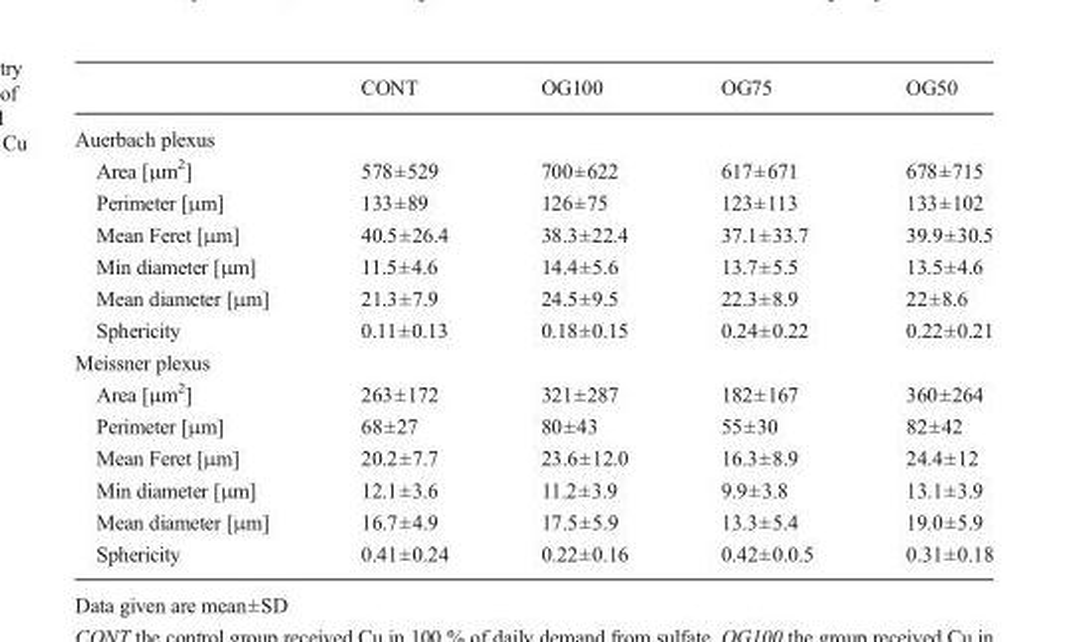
<table><thead><tr><td></td><td>CONT</td><td>OG100</td><td>OG75</td><td>OG50</td></tr></thead><tbody><tr><td colspan="5">Auerbach plexus</td></tr><tr><td>Area [μm<sup>2</sup>]</td><td>578±529</td><td>700±622</td><td>617±671</td><td>678±715</td></tr><tr><td>Perimeter [μm]</td><td>133±89</td><td>126±75</td><td>123±113</td><td>133±102</td></tr><tr><td>Mean Feret [μm]</td><td>40.5±26.4</td><td>38.3±22.4</td><td>37.1±33.7</td><td>39.9±30.5</td></tr><tr><td>Min diameter [μm]</td><td>11.5±4.6</td><td>14.4±5.6</td><td>13.7±5.5</td><td>13.5±4.6</td></tr><tr><td>Mean diameter [μm]</td><td>21.3±7.9</td><td>24.5±9.5</td><td>22.3±8.9</td><td>22±8.6</td></tr><tr><td>Sphericity</td><td>0.11±0.13</td><td>0.18±0.15</td><td>0.24±0.22</td><td>0.22±0.21</td></tr><tr><td colspan="5">Meissner plexus</td></tr><tr><td>Area [μm<sup>2</sup>]</td><td>263±172</td><td>321±287</td><td>182±167</td><td>360±264</td></tr><tr><td>Perimeter [μm]</td><td>68±27</td><td>80±43</td><td>55±30</td><td>82±42</td></tr><tr><td>Mean Feret [μm]</td><td>20.2±7.7</td><td>23.6±12.0</td><td>16.3±8.9</td><td>24.4±12</td></tr><tr><td>Min diameter [μm]</td><td>12.1±3.6</td><td>11.2±3.9</td><td>9.9±3.8</td><td>13.1±3.9</td></tr><tr><td>Mean diameter [μm]</td><td>16.7±4.9</td><td>17.5±5.9</td><td>13.3±5.4</td><td>19.0±5.9</td></tr><tr><td>Sphericity</td><td>0.41±0.24</td><td>0.22±0.16</td><td>0.42±0.0.5</td><td>0.31±0.18</td></tr></tbody></table>